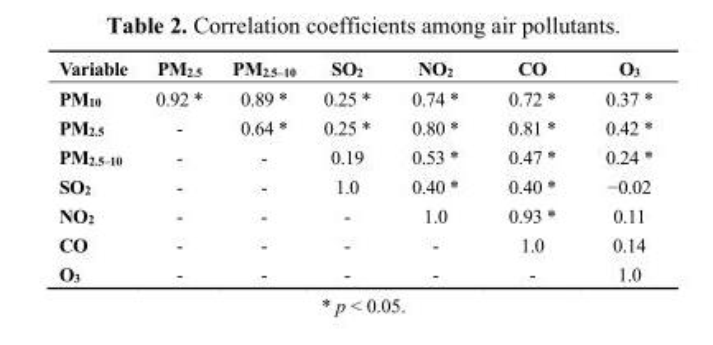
<table><thead><tr><td>Variable</td><td>PM<sub>2.5</sub></td><td>PM<sub>2.5–10</sub></td><td>SO<sub>2</sub></td><td>NO<sub>2</sub></td><td>CO</td><td>O<sub>3</sub></td></tr></thead><tbody><tr><td>PM<sub>10</sub></td><td>0.92 *</td><td>0.89 *</td><td>0.25 *</td><td>0.74 *</td><td>0.72 *</td><td>0.37 *</td></tr><tr><td>PM<sub>2.5</sub></td><td>-</td><td>0.64 *</td><td>0.25 *</td><td>0.80 *</td><td>0.81 *</td><td>0.42 *</td></tr><tr><td>PM<sub>2.5–10</sub></td><td>-</td><td>-</td><td>0.19</td><td>0.53 *</td><td>0.47 *</td><td>0.24 *</td></tr><tr><td>SO<sub>2</sub></td><td>-</td><td>-</td><td>1.0</td><td>0.40 *</td><td>0.40 *</td><td>−0.02</td></tr><tr><td>NO<sub>2</sub></td><td>-</td><td>-</td><td>-</td><td>1.0</td><td>0.93 *</td><td>0.11</td></tr><tr><td>CO</td><td>-</td><td>-</td><td>-</td><td>-</td><td>1.0</td><td>0.14</td></tr><tr><td>O<sub>3</sub></td><td>-</td><td>-</td><td>-</td><td>-</td><td>-</td><td>1.0</td></tr></tbody></table>